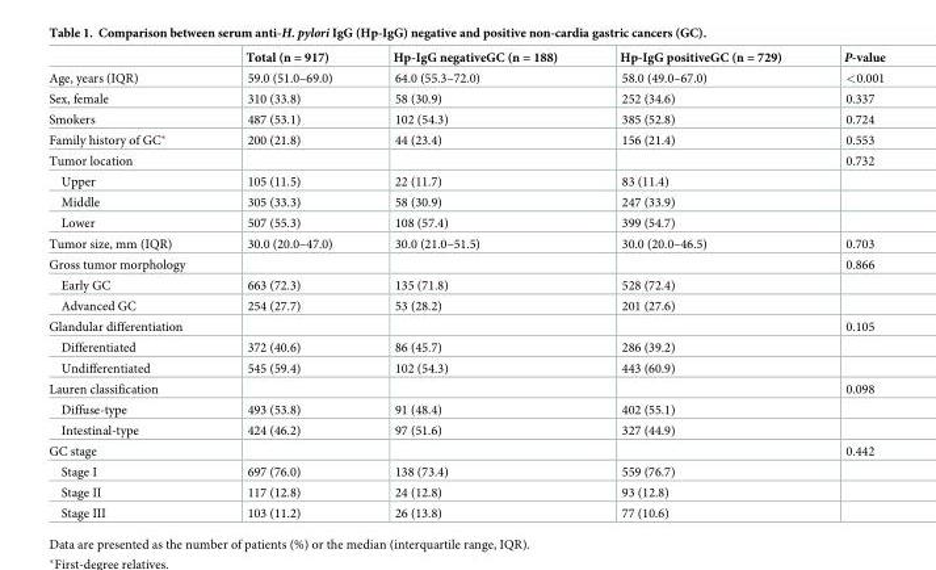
<table><thead><tr><td></td><td>Total (n = 917)</td><td>Hp-IgG negativeGC (n = 188)</td><td>Hp-IgG positiveGC (n = 729)</td><td>P-value</td></tr></thead><tbody><tr><td>Age, years (IQR)</td><td>59.0 (51.0–69.0)</td><td>64.0 (55.3–72.0)</td><td>58.0 (49.0–67.0)</td><td>&lt;0.001</td></tr><tr><td>Sex, female</td><td>310 (33.8)</td><td>58 (30.9)</td><td>252 (34.6)</td><td>0.337</td></tr><tr><td>Smokers</td><td>487 (53.1)</td><td>102 (54.3)</td><td>385 (52.8)</td><td>0.724</td></tr><tr><td>Family history of GC*</td><td>200 (21.8)</td><td>44 (23.4)</td><td>156 (21.4)</td><td>0.553</td></tr><tr><td>Tumor location</td><td></td><td></td><td></td><td>0.732</td></tr><tr><td>Upper</td><td>105 (11.5)</td><td>22 (11.7)</td><td>83 (11.4)</td><td></td></tr><tr><td>Middle</td><td>305 (33.3)</td><td>58 (30.9)</td><td>247 (33.9)</td><td></td></tr><tr><td>Lower</td><td>507 (55.3)</td><td>108 (57.4)</td><td>399 (54.7)</td><td></td></tr><tr><td>Tumor size, mm (IQR)</td><td>30.0 (20.0–47.0)</td><td>30.0 (21.0–51.5)</td><td>30.0 (20.0–46.5)</td><td>0.703</td></tr><tr><td>Gross tumor morphology</td><td></td><td></td><td></td><td>0.866</td></tr><tr><td>Early GC</td><td>663 (72.3)</td><td>135 (71.8)</td><td>528 (72.4)</td><td></td></tr><tr><td>Advanced GC</td><td>254 (27.7)</td><td>53 (28.2)</td><td>201 (27.6)</td><td></td></tr><tr><td>Glandular differentiation</td><td></td><td></td><td></td><td>0.105</td></tr><tr><td>Differentiated</td><td>372 (40.6)</td><td>86 (45.7)</td><td>286 (39.2)</td><td></td></tr><tr><td>Undifferentiated</td><td>545 (59.4)</td><td>102 (54.3)</td><td>443 (60.9)</td><td></td></tr><tr><td>Lauren classification</td><td></td><td></td><td></td><td>0.098</td></tr><tr><td>Diffuse-type</td><td>493 (53.8)</td><td>91 (48.4)</td><td>402 (55.1)</td><td></td></tr><tr><td>Intestinal-type</td><td>424 (46.2)</td><td>97 (51.6)</td><td>327 (44.9)</td><td></td></tr><tr><td>GC stage</td><td></td><td></td><td></td><td>0.442</td></tr><tr><td>Stage I</td><td>697 (76.0)</td><td>138 (73.4)</td><td>559 (76.7)</td><td></td></tr><tr><td>Stage II</td><td>117 (12.8)</td><td>24 (12.8)</td><td>93 (12.8)</td><td></td></tr><tr><td>Stage III</td><td>103 (11.2)</td><td>26 (13.8)</td><td>77 (10.6)</td><td></td></tr></tbody></table>